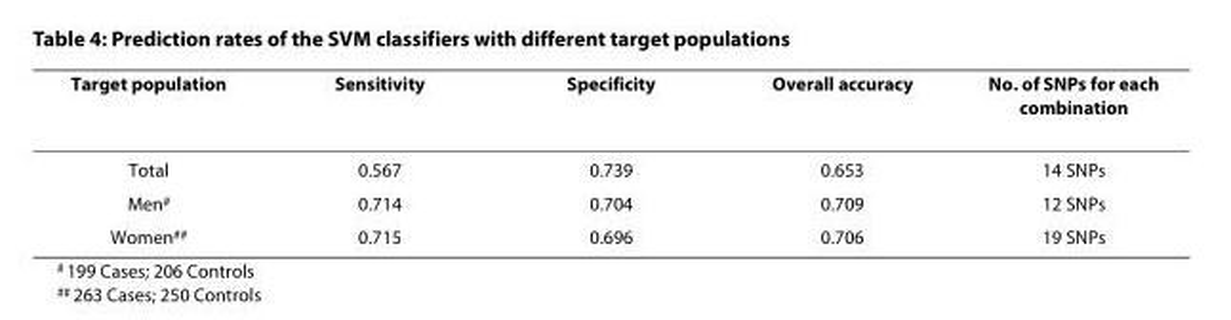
<table><thead><tr><td>Target population</td><td>Sensitivity</td><td>Specificity</td><td>Overall accuracy</td><td>No. of SNPs for each combination</td></tr></thead><tbody><tr><td>Total</td><td>0.567</td><td>0.739</td><td>0.653</td><td>14 SNPs</td></tr><tr><td>Men<sup>#</sup></td><td>0.714</td><td>0.704</td><td>0.709</td><td>12 SNPs</td></tr><tr><td>Women<sup>##</sup></td><td>0.715</td><td>0.696</td><td>0.706</td><td>19 SNPs</td></tr></tbody></table>